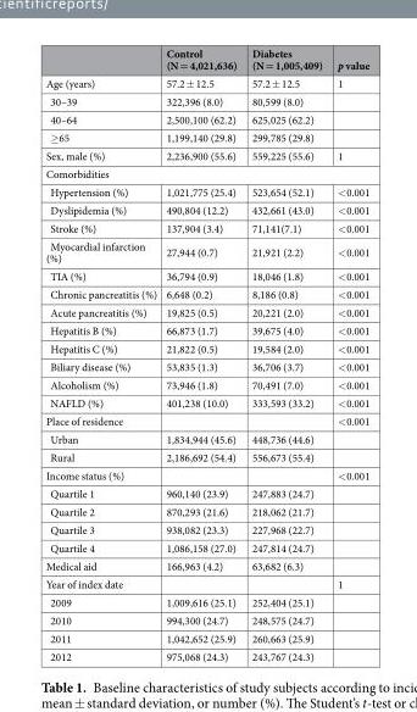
<table><thead><tr><td></td><td>Control (N = 4,021,636)</td><td>Diabetes (N = 1,005,409)</td><td>p value</td></tr></thead><tbody><tr><td>Age (years)</td><td>57.2 ± 12.5</td><td>57.2 ± 12.5</td><td>1</td></tr><tr><td>30–39</td><td>322,396 (8.0)</td><td>80,599 (8.0)</td><td></td></tr><tr><td>40–64</td><td>2,500,100 (62.2)</td><td>625,025 (62.2)</td><td></td></tr><tr><td>≥65</td><td>1,199,140 (29.8)</td><td>299,785 (29.8)</td><td></td></tr><tr><td>Sex, male (%)</td><td>2,236,900 (55.6)</td><td>559,225 (55.6)</td><td>1</td></tr><tr><td colspan="4">Comorbidities</td></tr><tr><td>Hypertension (%)</td><td>1,021,775 (25.4)</td><td>523,654 (52.1)</td><td>&lt;0.001</td></tr><tr><td>Dyslipidemia (%)</td><td>490,804 (12.2)</td><td>432,661 (43.0)</td><td>&lt;0.001</td></tr><tr><td>Stroke (%)</td><td>137,904 (3.4)</td><td>71,141(7.1)</td><td>&lt;0.001</td></tr><tr><td>Myocardial infarction (%)</td><td>27,944 (0.7)</td><td>21,921 (2.2)</td><td>&lt;0.001</td></tr><tr><td>TIA (%)</td><td>36,794 (0.9)</td><td>18,046 (1.8)</td><td>&lt;0.001</td></tr><tr><td>Chronic pancreatitis (%)</td><td>6,648 (0.2)</td><td>8,186 (0.8)</td><td>&lt;0.001</td></tr><tr><td>Acute pancreatitis (%)</td><td>19,825 (0.5)</td><td>20,221 (2.0)</td><td>&lt;0.001</td></tr><tr><td>Hepatitis B (%)</td><td>66,873 (1.7)</td><td>39,675 (4.0)</td><td>&lt;0.001</td></tr><tr><td>Hepatitis C (%)</td><td>21,822 (0.5)</td><td>19,584 (2.0)</td><td>&lt;0.001</td></tr><tr><td>Biliary disease (%)</td><td>53,835 (1.3)</td><td>36,706 (3.7)</td><td>&lt;0.001</td></tr><tr><td>Alcoholism (%)</td><td>73,946 (1.8)</td><td>70,491 (7.0)</td><td>&lt;0.001</td></tr><tr><td>NAFLD (%)</td><td>401,238 (10.0)</td><td>333,593 (33.2)</td><td>&lt;0.001</td></tr><tr><td>Place of residence</td><td></td><td></td><td>&lt;0.001</td></tr><tr><td>Urban</td><td>1,834,944 (45.6)</td><td>448,736 (44.6)</td><td></td></tr><tr><td>Rural</td><td>2,186,692 (54.4)</td><td>556,673 (55.4)</td><td></td></tr><tr><td>Income status (%)</td><td></td><td></td><td>&lt;0.001</td></tr><tr><td>Quartile 1</td><td>960,140 (23.9)</td><td>247,883 (24.7)</td><td></td></tr><tr><td>Quartile 2</td><td>870,293 (21.6)</td><td>218,062 (21.7)</td><td></td></tr><tr><td>Quartile 3</td><td>938,082 (23.3)</td><td>227,968 (22.7)</td><td></td></tr><tr><td>Quartile 4</td><td>1,086,158 (27.0)</td><td>247,814 (24.7)</td><td></td></tr><tr><td>Medical aid</td><td>166,963 (4.2)</td><td>63,682 (6.3)</td><td></td></tr><tr><td>Year of index date</td><td></td><td></td><td>1</td></tr><tr><td>2009</td><td>1,009,616 (25.1)</td><td>252,404 (25.1)</td><td></td></tr><tr><td>2010</td><td>994,300 (24.7)</td><td>248,575 (24.7)</td><td></td></tr><tr><td>2011</td><td>1,042,652 (25.9)</td><td>260,663 (25.9)</td><td></td></tr><tr><td>2012</td><td>975,068 (24.3)</td><td>243,767 (24.3)</td><td></td></tr></tbody></table>